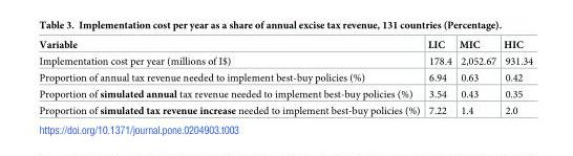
<table><thead><tr><td>Variable</td><td>LIC</td><td>MIC</td><td>HIC</td></tr></thead><tbody><tr><td>Implementation cost per year (millions of I$)</td><td>178.4</td><td>2,052.67</td><td>931.34</td></tr><tr><td>Proportion of annual tax revenue needed to implement best-buy policies (%)</td><td>6.94</td><td>0.63</td><td>0.42</td></tr><tr><td>Proportion of simulated annual tax revenue needed to implement best-buy policies (%)</td><td>3.54</td><td>0.43</td><td>0.35</td></tr><tr><td>Proportion of simulated tax revenue increase needed to implement best-buy policies (%)</td><td>7.22</td><td>1.4</td><td>2.0</td></tr></tbody></table>